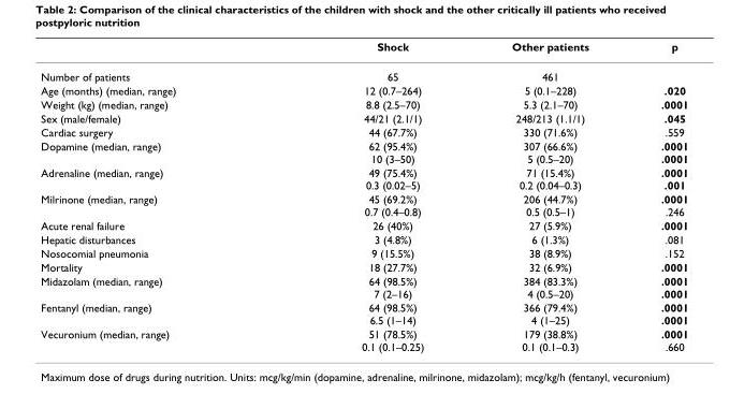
<table><thead><tr><td></td><td>Shock</td><td>Other patients</td><td>p</td></tr></thead><tbody><tr><td>Number of patients</td><td>65</td><td>461</td><td></td></tr><tr><td>Age (months) (median, range)</td><td>12 (0.7–264)</td><td>5 (0.1–228)</td><td>.020</td></tr><tr><td>Weight (kg) (median, range)</td><td>8.8 (2.5–70)</td><td>5.3 (2.1–70)</td><td>.0001</td></tr><tr><td>Sex (male/female)</td><td>44/21 (2.1/1)</td><td>248/213 (1.1/1)</td><td>.045</td></tr><tr><td>Cardiac surgery</td><td>44 (67.7%)</td><td>330 (71.6%)</td><td>.559</td></tr><tr><td>Dopamine (median, range)</td><td>62 (95.4%) 10 (3–50)</td><td>307 (66.6%) 5 (0.5–20)</td><td>.0001 .0001</td></tr><tr><td>Adrenaline (median, range)</td><td>49 (75.4%) 0.3 (0.02–5)</td><td>71 (15.4%) 0.2 (0.04–0.3)</td><td>.0001 .001</td></tr><tr><td>Milrinone (median, range)</td><td>45 (69.2%) 0.7 (0.4–0.8)</td><td>206 (44.7%) 0.5 (0.5–1)</td><td>.0001 .246</td></tr><tr><td>Acute renal failure</td><td>26 (40%)</td><td>27 (5.9%)</td><td>.0001</td></tr><tr><td>Hepatic disturbances</td><td>3 (4.8%)</td><td>6 (1.3%)</td><td>.081</td></tr><tr><td>Nosocomial pneumonia</td><td>9 (15.5%)</td><td>38 (8.9%)</td><td>.152</td></tr><tr><td>Mortality</td><td>18 (27.7%)</td><td>32 (6.9%)</td><td>.0001</td></tr><tr><td>Midazolam (median, range)</td><td>64 (98.5%) 7 (2–16)</td><td>384 (83.3%) 4 (0.5–20)</td><td>.0001 .0001</td></tr><tr><td>Fentanyl (median, range)</td><td>64 (98.5%) 6.5 (1–14)</td><td>366 (79.4%) 4 (1–25)</td><td>.0001 .0001</td></tr><tr><td>Vecuronium (median, range)</td><td>51 (78.5%) 0.1 (0.1–0.25)</td><td>179 (38.8%) 0.1 (0.1–0.3)</td><td>.0001 .660</td></tr></tbody></table>